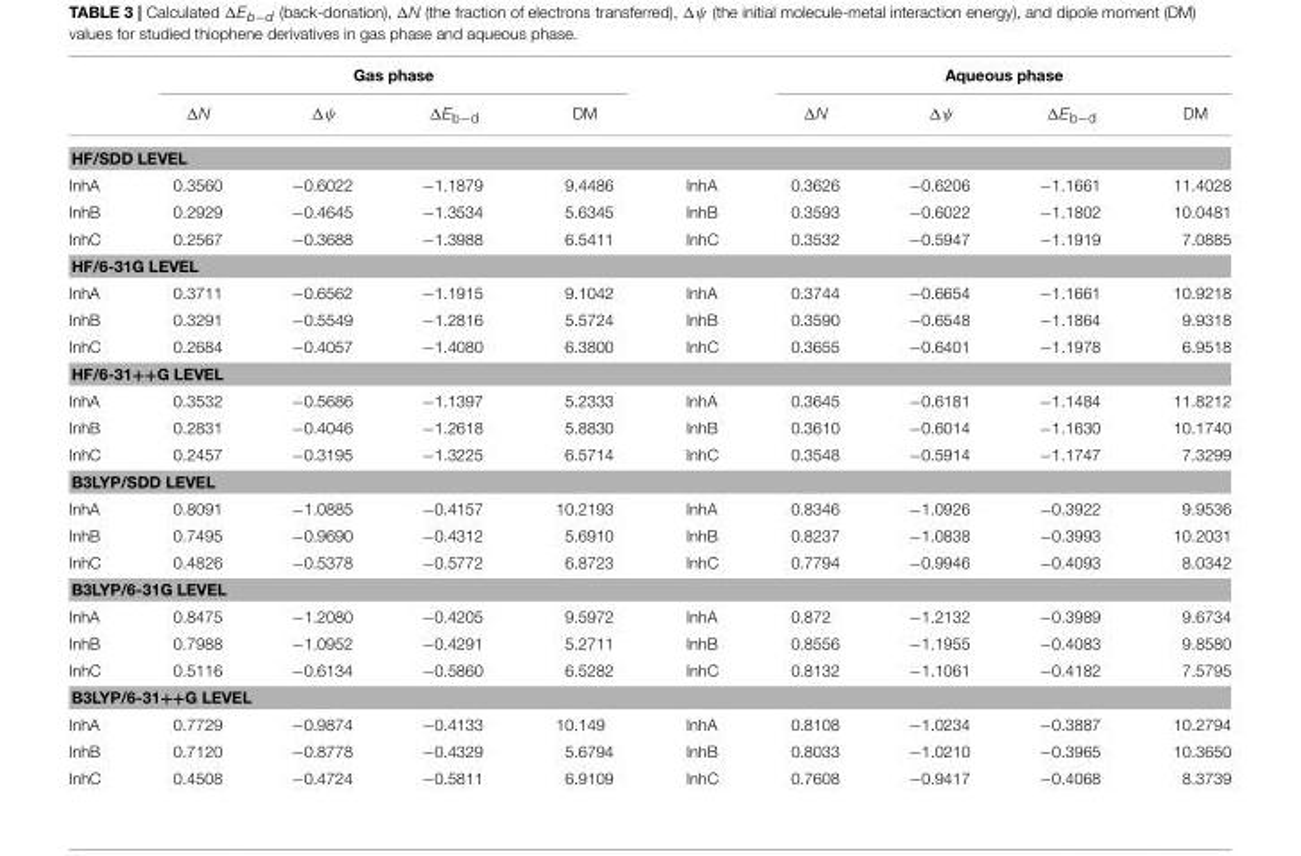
<table><thead><tr><td rowspan="2"></td><td colspan="4">Gas phase</td><td rowspan="2"></td><td colspan="4">Aqueous phase</td></tr><tr><td>ΔN</td><td>Δψ</td><td>ΔE<sub>b−d</sub></td><td>DM</td><td>ΔN</td><td>Δψ</td><td>ΔE<sub>b−d</sub></td><td>DM</td></tr></thead><tbody><tr><td colspan="10">HF/SDD LEVEL</td></tr><tr><td>InhA</td><td>0.3560</td><td>−0.6022</td><td>−1.1879</td><td>9.4486</td><td>InhA</td><td>0.3626</td><td>−0.6206</td><td>−1.1661</td><td>11.4028</td></tr><tr><td>InhB</td><td>0.2929</td><td>−0.4645</td><td>−1.3534</td><td>5.6345</td><td>InhB</td><td>0.3593</td><td>−0.6022</td><td>−1.1802</td><td>10.0481</td></tr><tr><td>InhC</td><td>0.2567</td><td>−0.3688</td><td>−1.3988</td><td>6.5411</td><td>InhC</td><td>0.3532</td><td>−0.5947</td><td>−1.1919</td><td>7.0885</td></tr><tr><td colspan="10">HF/6-31G LEVEL</td></tr><tr><td>InhA</td><td>0.3711</td><td>−0.6562</td><td>−1.1915</td><td>9.1042</td><td>InhA</td><td>0.3744</td><td>−0.6654</td><td>−1.1661</td><td>10.9218</td></tr><tr><td>InhB</td><td>0.3291</td><td>−0.5549</td><td>−1.2816</td><td>5.5724</td><td>InhB</td><td>0.3590</td><td>−0.6548</td><td>−1.1864</td><td>9.9318</td></tr><tr><td>InhC</td><td>0.2684</td><td>−0.4057</td><td>−1.4080</td><td>6.3800</td><td>InhC</td><td>0.3655</td><td>−0.6401</td><td>−1.1978</td><td>6.9518</td></tr><tr><td colspan="10">HF/6-31++G LEVEL</td></tr><tr><td>InhA</td><td>0.3532</td><td>−0.5686</td><td>−1.1397</td><td>5.2333</td><td>InhA</td><td>0.3645</td><td>−0.6181</td><td>−1.1484</td><td>11.8212</td></tr><tr><td>InhB</td><td>0.2831</td><td>−0.4046</td><td>−1.2618</td><td>5.8830</td><td>InhB</td><td>0.3610</td><td>−0.6014</td><td>−1.1630</td><td>10.1740</td></tr><tr><td>InhC</td><td>0.2457</td><td>−0.3195</td><td>−1.3225</td><td>6.5714</td><td>InhC</td><td>0.3548</td><td>−0.5914</td><td>−1.1747</td><td>7.3299</td></tr><tr><td colspan="10">B3LYP/SDD LEVEL</td></tr><tr><td>InhA</td><td>0.8091</td><td>−1.0885</td><td>−0.4157</td><td>10.2193</td><td>InhA</td><td>0.8346</td><td>−1.0926</td><td>−0.3922</td><td>9.9536</td></tr><tr><td>InhB</td><td>0.7495</td><td>−0.9690</td><td>−0.4312</td><td>5.6910</td><td>InhB</td><td>0.8237</td><td>−1.0838</td><td>−0.3993</td><td>10.2031</td></tr><tr><td>InhC</td><td>0.4826</td><td>−0.5378</td><td>−0.5772</td><td>6.8723</td><td>InhC</td><td>0.7794</td><td>−0.9946</td><td>−0.4093</td><td>8.0342</td></tr><tr><td colspan="10">B3LYP/6-31G LEVEL</td></tr><tr><td>InhA</td><td>0.8475</td><td>−1.2080</td><td>−0.4205</td><td>9.5972</td><td>InhA</td><td>0.872</td><td>−1.2132</td><td>−0.3989</td><td>9.6734</td></tr><tr><td>InhB</td><td>0.7988</td><td>−1.0952</td><td>−0.4291</td><td>5.2711</td><td>InhB</td><td>0.8556</td><td>−1.1955</td><td>−0.4083</td><td>9.8580</td></tr><tr><td>InhC</td><td>0.5116</td><td>−0.6134</td><td>−0.5860</td><td>6.5282</td><td>InhC</td><td>0.8132</td><td>−1.1061</td><td>−0.4182</td><td>7.5795</td></tr><tr><td colspan="10">B3LYP/6-31++G LEVEL</td></tr><tr><td>InhA</td><td>0.7729</td><td>−0.9874</td><td>−0.4133</td><td>10.149</td><td>InhA</td><td>0.8108</td><td>−1.0234</td><td>−0.3887</td><td>10.2794</td></tr><tr><td>InhB</td><td>0.7120</td><td>−0.8778</td><td>−0.4329</td><td>5.6794</td><td>InhB</td><td>0.8033</td><td>−1.0210</td><td>−0.3965</td><td>10.3650</td></tr><tr><td>InhC</td><td>0.4508</td><td>−0.4724</td><td>−0.5811</td><td>6.9109</td><td>InhC</td><td>0.7608</td><td>−0.9417</td><td>−0.4068</td><td>8.3739</td></tr></tbody></table>